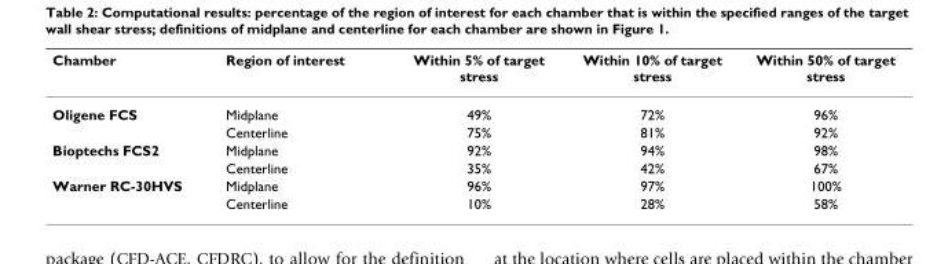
<table><thead><tr><td>Chamber</td><td>Region of interest</td><td>Within 5% of target stress</td><td>Within 10% of target stress</td><td>Within 50% of target stress</td></tr></thead><tbody><tr><td rowspan="2">Oligene FCS</td><td>Midplane</td><td>49%</td><td>72%</td><td>96%</td></tr><tr><td>Centerline</td><td>75%</td><td>81%</td><td>92%</td></tr><tr><td rowspan="2">Bioptechs FCS2</td><td>Midplane</td><td>92%</td><td>94%</td><td>98%</td></tr><tr><td>Centerline</td><td>35%</td><td>42%</td><td>67%</td></tr><tr><td rowspan="2">Warner RC-30HVS</td><td>Midplane</td><td>96%</td><td>97%</td><td>100%</td></tr><tr><td>Centerline</td><td>10%</td><td>28%</td><td>58%</td></tr></tbody></table>